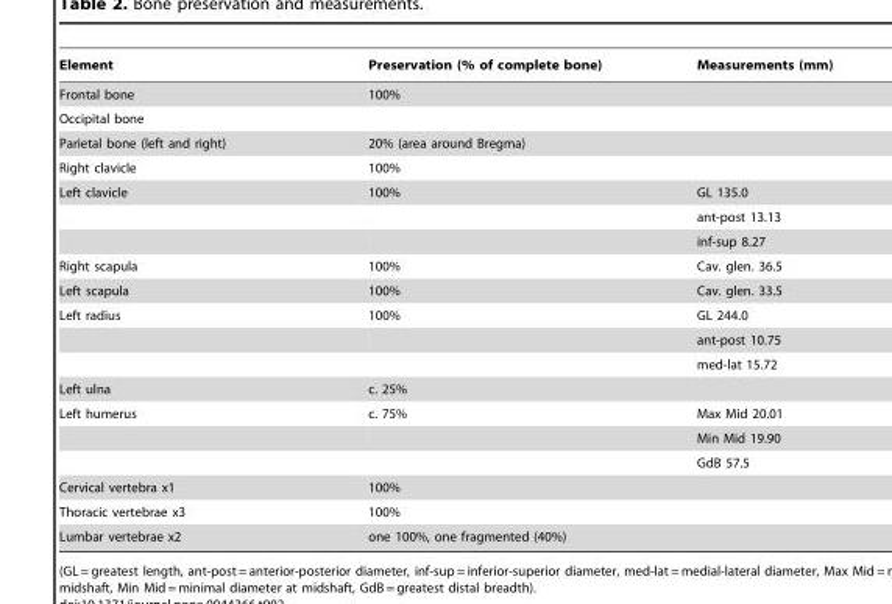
<table><thead><tr><td>Element</td><td>Preservation (% of complete bone)</td><td>Measurements (mm)</td></tr></thead><tbody><tr><td>Frontal bone</td><td>100%</td><td></td></tr><tr><td colspan="3">Occipital bone</td></tr><tr><td>Parietal bone (left and right)</td><td>20% (area around Bregma)</td><td></td></tr><tr><td>Right clavicle</td><td>100%</td><td></td></tr><tr><td rowspan="3">Left clavicle</td><td>100%</td><td>GL 135.0</td></tr><tr><td></td><td>ant-post 13.13</td></tr><tr><td></td><td>inf-sup 8.27</td></tr><tr><td>Right scapula</td><td>100%</td><td>Cav. glen. 36.5</td></tr><tr><td>Left scapula</td><td>100%</td><td>Cav. glen. 33.5</td></tr><tr><td rowspan="3">Left radius</td><td>100%</td><td>GL 244.0</td></tr><tr><td></td><td>ant-post 10.75</td></tr><tr><td></td><td>med-lat 15.72</td></tr><tr><td>Left ulna</td><td>c. 25%</td><td></td></tr><tr><td rowspan="3">Left humerus</td><td>c. 75%</td><td>Max Mid 20.01</td></tr><tr><td></td><td>Min Mid 19.90</td></tr><tr><td></td><td>GdB 57.5</td></tr><tr><td>Cervical vertebra x1</td><td>100%</td><td></td></tr><tr><td>Thoracic vertebrae x3</td><td>100%</td><td></td></tr><tr><td>Lumbar vertebrae x2</td><td>one 100%, one fragmented (40%)</td><td></td></tr></tbody></table>